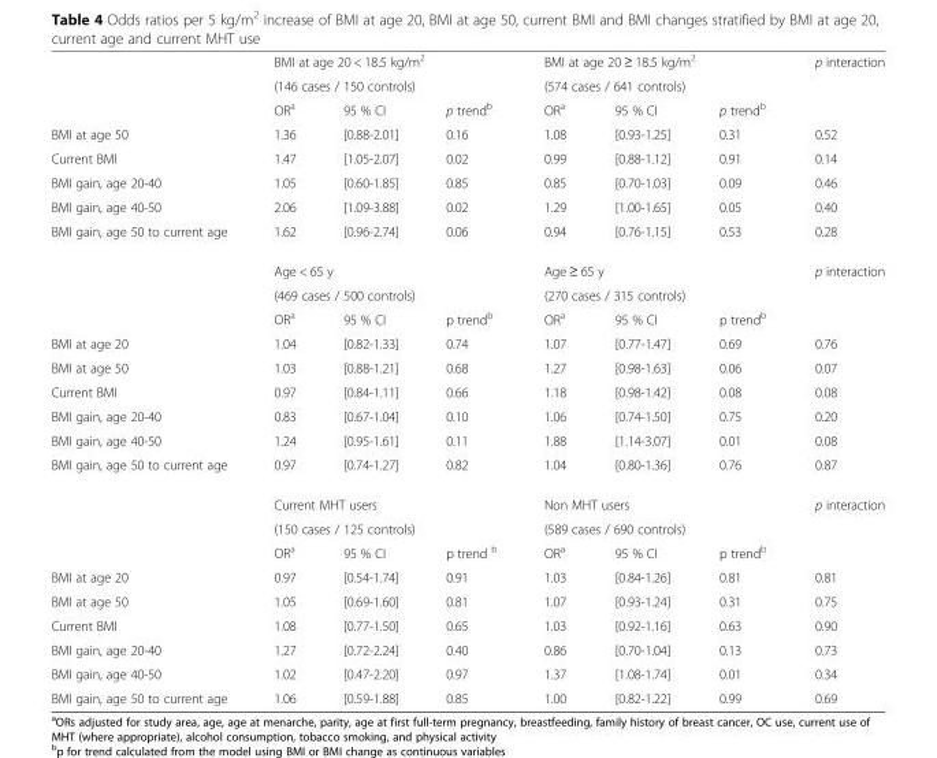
<table><thead><tr><td rowspan="3"></td><td rowspan="2" colspan="3">BMI at age 20 &lt; 18.5 kg/m<sup>2</sup> (146 cases / 150 controls)</td><td rowspan="2" colspan="3">BMI at age 20 ≥ 18.5 kg/m<sup>2</sup> (574 cases / 641 controls)</td><td rowspan="3">p interaction</td></tr><tr></tr><tr><td>OR<sup>a</sup></td><td>95 % CI</td><td>p trend<sup>b</sup></td><td>OR<sup>a</sup></td><td>95 % CI</td><td>p trend<sup>b</sup></td></tr></thead><tbody><tr><td>BMI at age 50</td><td>1.36</td><td>[0.88-2.01]</td><td>0.16</td><td>1.08</td><td>[0.93-1.25]</td><td>0.31</td><td>0.52</td></tr><tr><td>Current BMI</td><td>1.47</td><td>[1.05-2.07]</td><td>0.02</td><td>0.99</td><td>[0.88-1.12]</td><td>0.91</td><td>0.14</td></tr><tr><td>BMI gain, age 20-40</td><td>1.05</td><td>[0.60-1.85]</td><td>0.85</td><td>0.85</td><td>[0.70-1.03]</td><td>0.09</td><td>0.46</td></tr><tr><td>BMI gain, age 40-50</td><td>2.06</td><td>[1.09-3.88]</td><td>0.02</td><td>1.29</td><td>[1.00-1.65]</td><td>0.05</td><td>0.40</td></tr><tr><td rowspan="4">BMI gain, age 50 to current age</td><td>1.62</td><td>[0.96-2.74]</td><td>0.06</td><td>0.94</td><td>[0.76-1.15]</td><td>0.53</td><td>0.28</td></tr><tr><td colspan="3">Age &lt; 65 y</td><td colspan="3">Age ≥ 65 y</td><td rowspan="3">p interaction</td></tr><tr><td colspan="3">(469 cases / 500 controls)</td><td colspan="3">(270 cases / 315 controls)</td></tr><tr><td>OR<sup>a</sup></td><td>95 % CI</td><td>p trend<sup>b</sup></td><td>OR<sup>a</sup></td><td>95 % CI</td><td>p trend<sup>b</sup></td></tr><tr><td>BMI at age 20</td><td>1.04</td><td>[0.82-1.33]</td><td>0.74</td><td>1.07</td><td>[0.77-1.47]</td><td>0.69</td><td>0.76</td></tr><tr><td>BMI at age 50</td><td>1.03</td><td>[0.88-1.21]</td><td>0.68</td><td>1.27</td><td>[0.98-1.63]</td><td>0.06</td><td>0.07</td></tr><tr><td>Current BMI</td><td>0.97</td><td>[0.84-1.11]</td><td>0.66</td><td>1.18</td><td>[0.98-1.42]</td><td>0.08</td><td>0.08</td></tr><tr><td>BMI gain, age 20-40</td><td>0.83</td><td>[0.67-1.04]</td><td>0.10</td><td>1.06</td><td>[0.74-1.50]</td><td>0.75</td><td>0.20</td></tr><tr><td>BMI gain, age 40-50</td><td>1.24</td><td>[0.95-1.61]</td><td>0.11</td><td>1.88</td><td>[1.14-3.07]</td><td>0.01</td><td>0.08</td></tr><tr><td rowspan="4">BMI gain, age 50 to current age</td><td>0.97</td><td>[0.74-1.27]</td><td>0.82</td><td>1.04</td><td>[0.80-1.36]</td><td>0.76</td><td>0.87</td></tr><tr><td colspan="3">Current MHT users</td><td colspan="3">Non MHT users</td><td rowspan="3">p interaction</td></tr><tr><td colspan="3">(150 cases / 125 controls)</td><td colspan="3">(589 cases / 690 controls)</td></tr><tr><td>OR<sup>a</sup></td><td>95 % CI</td><td>p trend <sup>b</sup></td><td>OR<sup>a</sup></td><td>95 % CI</td><td>p trend<sup>b</sup></td></tr><tr><td>BMI at age 20</td><td>0.97</td><td>[0.54-1.74]</td><td>0.91</td><td>1.03</td><td>[0.84-1.26]</td><td>0.81</td><td>0.81</td></tr><tr><td>BMI at age 50</td><td>1.05</td><td>[0.69-1.60]</td><td>0.81</td><td>1.07</td><td>[0.93-1.24]</td><td>0.31</td><td>0.75</td></tr><tr><td>Current BMI</td><td>1.08</td><td>[0.77-1.50]</td><td>0.65</td><td>1.03</td><td>[0.92-1.16]</td><td>0.63</td><td>0.90</td></tr><tr><td>BMI gain, age 20-40</td><td>1.27</td><td>[0.72-2.24]</td><td>0.40</td><td>0.86</td><td>[0.70-1.04]</td><td>0.13</td><td>0.73</td></tr><tr><td>BMI gain, age 40-50</td><td>1.02</td><td>[0.47-2.20]</td><td>0.97</td><td>1.37</td><td>[1.08-1.74]</td><td>0.01</td><td>0.34</td></tr><tr><td>BMI gain, age 50 to current age</td><td>1.06</td><td>[0.59-1.88]</td><td>0.85</td><td>1.00</td><td>[0.82-1.22]</td><td>0.99</td><td>0.69</td></tr></tbody></table>